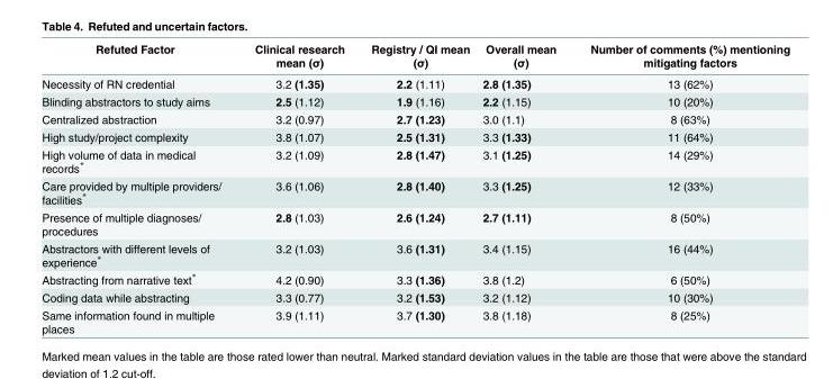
<table><thead><tr><td>Refuted Factor</td><td>Clinical research mean (σ)</td><td>Registry / QI mean (σ)</td><td>Overall mean (σ)</td><td>Number of comments (%) mentioning mitigating factors</td></tr></thead><tbody><tr><td>Necessity of RN credential</td><td>3.2 (1.35)</td><td>2.2 (1.11)</td><td>2.8 (1.35)</td><td>13 (62%)</td></tr><tr><td>Blinding abstractors to study aims</td><td>2.5 (1.12)</td><td>1.9 (1.16)</td><td>2.2 (1.15)</td><td>10 (20%)</td></tr><tr><td>Centralized abstraction</td><td>3.2 (0.97)</td><td>2.7 (1.23)</td><td>3.0 (1.1)</td><td>8 (63%)</td></tr><tr><td>High study/project complexity</td><td>3.8 (1.07)</td><td>2.5 (1.31)</td><td>3.3 (1.33)</td><td>11 (64%)</td></tr><tr><td>High volume of data in medical records*</td><td>3.2 (1.09)</td><td>2.8 (1.47)</td><td>3.1 (1.25)</td><td>14 (29%)</td></tr><tr><td>Care provided by multiple providers/ facilities*</td><td>3.6 (1.06)</td><td>2.8 (1.40)</td><td>3.3 (1.25)</td><td>12 (33%)</td></tr><tr><td>Presence of multiple diagnoses/ procedures</td><td>2.8 (1.03)</td><td>2.6 (1.24)</td><td>2.7 (1.11)</td><td>8 (50%)</td></tr><tr><td>Abstractors with different levels of experience*</td><td>3.2 (1.03)</td><td>3.6 (1.31)</td><td>3.4 (1.15)</td><td>16 (44%)</td></tr><tr><td>Abstracting from narrative text*</td><td>4.2 (0.90)</td><td>3.3 (1.36)</td><td>3.8 (1.2)</td><td>6 (50%)</td></tr><tr><td>Coding data while abstracting</td><td>3.3 (0.77)</td><td>3.2 (1.53)</td><td>3.2 (1.12)</td><td>10 (30%)</td></tr><tr><td>Same information found in multiple places</td><td>3.9 (1.11)</td><td>3.7 (1.30)</td><td>3.8 (1.18)</td><td>8 (25%)</td></tr></tbody></table>